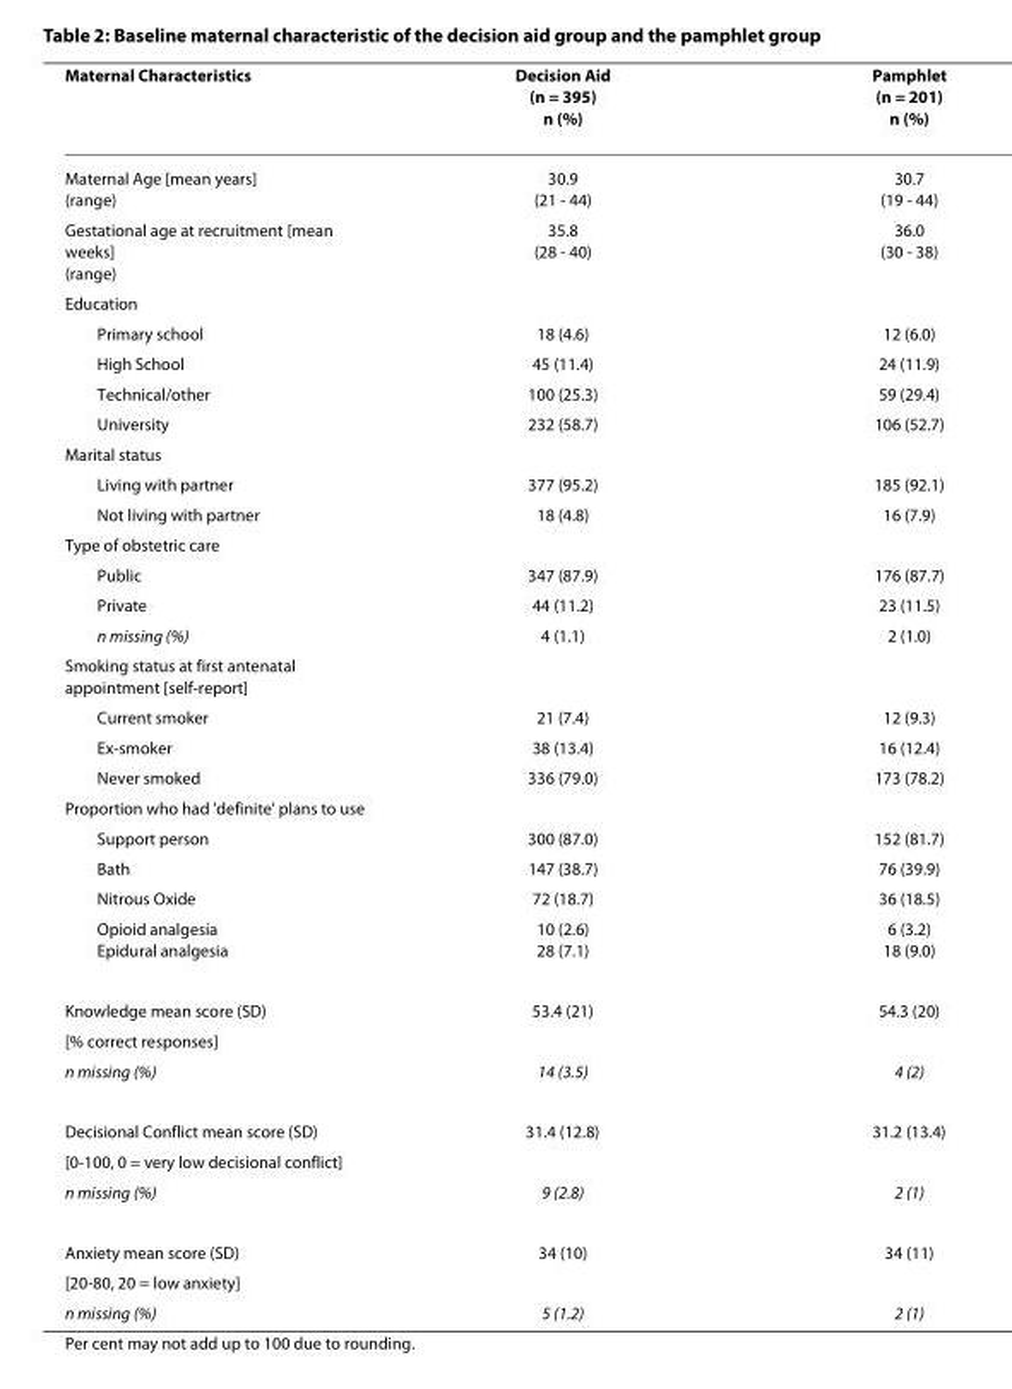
<table><thead><tr><td>Maternal Characteristics</td><td>Decision Aid (n = 395) n (%)</td><td>Pamphlet (n = 201) n (%)</td></tr></thead><tbody><tr><td>Maternal Age [mean years] (range)</td><td>30.9 (21 - 44)</td><td>30.7 (19 - 44)</td></tr><tr><td>Gestational age at recruitment [mean weeks] (range)</td><td>35.8 (28 - 40)</td><td>36.0 (30 - 38)</td></tr><tr><td colspan="3">Education</td></tr><tr><td>Primary school</td><td>18 (4.6)</td><td>12 (6.0)</td></tr><tr><td>High School</td><td>45 (11.4)</td><td>24 (11.9)</td></tr><tr><td>Technical/other</td><td>100 (25.3)</td><td>59 (29.4)</td></tr><tr><td>University</td><td>232 (58.7)</td><td>106 (52.7)</td></tr><tr><td colspan="3">Marital status</td></tr><tr><td>Living with partner</td><td>377 (95.2)</td><td>185 (92.1)</td></tr><tr><td>Not living with partner</td><td>18 (4.8)</td><td>16 (7.9)</td></tr><tr><td colspan="3">Type of obstetric care</td></tr><tr><td>Public</td><td>347 (87.9)</td><td>176 (87.7)</td></tr><tr><td>Private</td><td>44 (11.2)</td><td>23 (11.5)</td></tr><tr><td>n missing (%)</td><td>4 (1.1)</td><td>2 (1.0)</td></tr><tr><td colspan="3">Smoking status at first antenatal appointment [self-report]</td></tr><tr><td>Current smoker</td><td>21 (7.4)</td><td>12 (9.3)</td></tr><tr><td>Ex-smoker</td><td>38 (13.4)</td><td>16 (12.4)</td></tr><tr><td>Never smoked</td><td>336 (79.0)</td><td>173 (78.2)</td></tr><tr><td colspan="3">Proportion who had &#x27;definite&#x27; plans to use</td></tr><tr><td>Support person</td><td>300 (87.0)</td><td>152 (81.7)</td></tr><tr><td>Bath</td><td>147 (38.7)</td><td>76 (39.9)</td></tr><tr><td>Nitrous Oxide</td><td>72 (18.7)</td><td>36 (18.5)</td></tr><tr><td>Opioid analgesia Epidural analgesia</td><td>10 (2.6) 28 (7.1)</td><td>6 (3.2) 18 (9.0)</td></tr><tr><td>Knowledge mean score (SD)</td><td>53.4 (21)</td><td>54.3 (20)</td></tr><tr><td colspan="3">[% correct responses]</td></tr><tr><td>n missing (%)</td><td>14 (3.5)</td><td>4 (2)</td></tr><tr><td>Decisional Conflict mean score (SD)</td><td>31.4 (12.8)</td><td>31.2 (13.4)</td></tr><tr><td colspan="3">[0-100, 0 = very low decisional conflict]</td></tr><tr><td>n missing (%)</td><td>9 (2.8)</td><td>2 (1)</td></tr><tr><td>Anxiety mean score (SD)</td><td>34 (10)</td><td>34 (11)</td></tr><tr><td colspan="3">[20-80, 20 = low anxiety]</td></tr><tr><td>n missing (%)</td><td>5 (1.2)</td><td>2 (1)</td></tr></tbody></table>